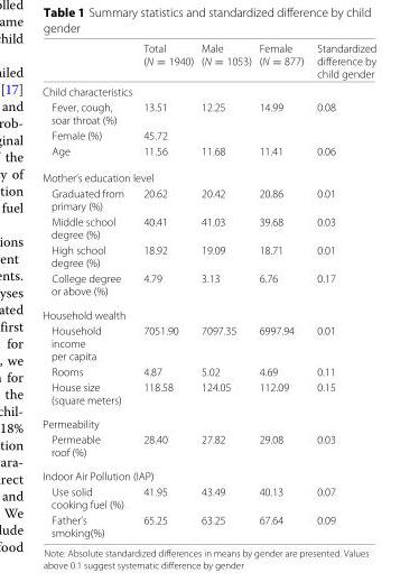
<table><thead><tr><td></td><td>Total (N = 1940)</td><td>Male (N = 1053)</td><td>Female (N = 877)</td><td>Standardized difference by child gender</td></tr></thead><tbody><tr><td colspan="5">Child characteristics</td></tr><tr><td>Fever, cough, soar throat (%)</td><td>13.51</td><td>12.25</td><td>14.99</td><td>0.08</td></tr><tr><td>Female (%)</td><td>45.72</td><td></td><td></td><td></td></tr><tr><td>Age</td><td>11.56</td><td>11.68</td><td>11.41</td><td>0.06</td></tr><tr><td colspan="5">Mother’s education level</td></tr><tr><td>Graduated from primary (%)</td><td>20.62</td><td>20.42</td><td>20.86</td><td>0.01</td></tr><tr><td>Middle school degree (%)</td><td>40.41</td><td>41.03</td><td>39.68</td><td>0.03</td></tr><tr><td>High school degree (%)</td><td>18.92</td><td>19.09</td><td>18.71</td><td>0.01</td></tr><tr><td>College degree or above (%)</td><td>4.79</td><td>3.13</td><td>6.76</td><td>0.17</td></tr><tr><td colspan="5">Household wealth</td></tr><tr><td>Household income per capita</td><td>7051.90</td><td>7097.35</td><td>6997.94</td><td>0.01</td></tr><tr><td>Rooms</td><td>4.87</td><td>5.02</td><td>4.69</td><td>0.11</td></tr><tr><td>House size (square meters)</td><td>118.58</td><td>124.05</td><td>112.09</td><td>0.15</td></tr><tr><td colspan="5">Permeability</td></tr><tr><td>Permeable roof (%)</td><td>28.40</td><td>27.82</td><td>29.08</td><td>0.03</td></tr><tr><td colspan="5">Indoor Air Pollution (IAP)</td></tr><tr><td>Use solid cooking fuel (%)</td><td>41.95</td><td>43.49</td><td>40.13</td><td>0.07</td></tr><tr><td>Father’s smoking(%)</td><td>65.25</td><td>63.25</td><td>67.64</td><td>0.09</td></tr></tbody></table>